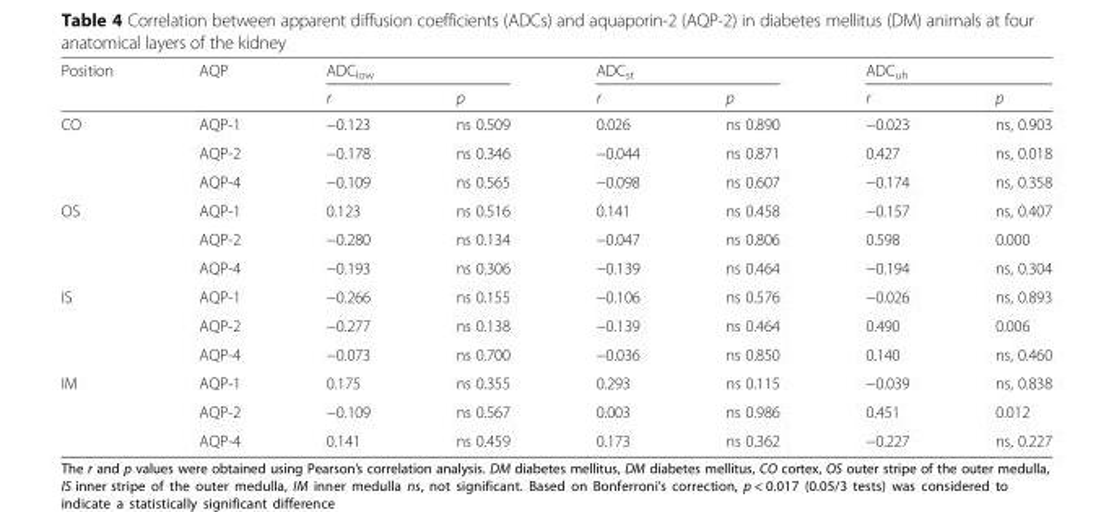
<table><thead><tr><td rowspan="2">Position</td><td rowspan="2">AQP</td><td colspan="2">ADC<sub>low</sub></td><td colspan="2">ADC<sub>st</sub></td><td colspan="2">ADC<sub>uh</sub></td></tr><tr><td>r</td><td>p</td><td>r</td><td>p</td><td>r</td><td>p</td></tr></thead><tbody><tr><td rowspan="3">CO</td><td>AQP-1</td><td>−0.123</td><td>ns 0.509</td><td>0.026</td><td>ns 0.890</td><td>−0.023</td><td>ns, 0.903</td></tr><tr><td>AQP-2</td><td>−0.178</td><td>ns 0.346</td><td>−0.044</td><td>ns 0.871</td><td>0.427</td><td>ns, 0.018</td></tr><tr><td>AQP-4</td><td>−0.109</td><td>ns 0.565</td><td>−0.098</td><td>ns 0.607</td><td>−0.174</td><td>ns, 0.358</td></tr><tr><td rowspan="3">OS</td><td>AQP-1</td><td>0.123</td><td>ns 0.516</td><td>0.141</td><td>ns 0.458</td><td>−0.157</td><td>ns, 0.407</td></tr><tr><td>AQP-2</td><td>−0.280</td><td>ns 0.134</td><td>−0.047</td><td>ns 0.806</td><td>0.598</td><td>0.000</td></tr><tr><td>AQP-4</td><td>−0.193</td><td>ns 0.306</td><td>−0.139</td><td>ns 0.464</td><td>−0.194</td><td>ns, 0.304</td></tr><tr><td rowspan="3">IS</td><td>AQP-1</td><td>−0.266</td><td>ns 0.155</td><td>−0.106</td><td>ns 0.576</td><td>−0.026</td><td>ns, 0.893</td></tr><tr><td>AQP-2</td><td>−0.277</td><td>ns 0.138</td><td>−0.139</td><td>ns 0.464</td><td>0.490</td><td>0.006</td></tr><tr><td>AQP-4</td><td>−0.073</td><td>ns 0.700</td><td>−0.036</td><td>ns 0.850</td><td>0.140</td><td>ns, 0.460</td></tr><tr><td rowspan="3">IM</td><td>AQP-1</td><td>0.175</td><td>ns 0.355</td><td>0.293</td><td>ns 0.115</td><td>−0.039</td><td>ns, 0.838</td></tr><tr><td>AQP-2</td><td>−0.109</td><td>ns 0.567</td><td>0.003</td><td>ns 0.986</td><td>0.451</td><td>0.012</td></tr><tr><td>AQP-4</td><td>0.141</td><td>ns 0.459</td><td>0.173</td><td>ns 0.362</td><td>−0.227</td><td>ns, 0.227</td></tr></tbody></table>